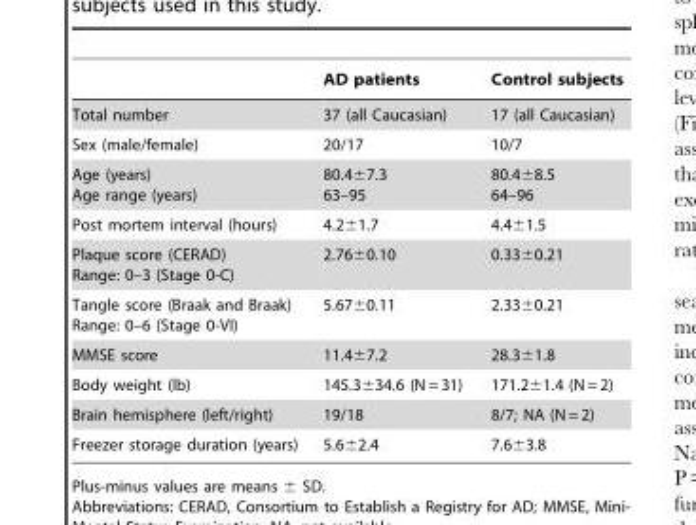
<table><thead><tr><td></td><td>AD patients</td><td>Control subjects</td></tr></thead><tbody><tr><td>Total number</td><td>37 (all Caucasian)</td><td>17 (all Caucasian)</td></tr><tr><td>Sex (male/female)</td><td>20/17</td><td>10/7</td></tr><tr><td>Age (years) Age range (years)</td><td>80.4±7.3 63–95</td><td>80.4±8.5 64–96</td></tr><tr><td>Post mortem interval (hours)</td><td>4.2±1.7</td><td>4.4±1.5</td></tr><tr><td>Plaque score (CERAD) Range: 0–3 (Stage 0-C)</td><td>2.76±0.10</td><td>0.33±0.21</td></tr><tr><td>Tangle score (Braak and Braak) Range: 0–6 (Stage 0-VI)</td><td>5.67±0.11</td><td>2.33±0.21</td></tr><tr><td>MMSE score</td><td>11.4±7.2</td><td>28.3±1.8</td></tr><tr><td>Body weight (lb)</td><td>145.3±34.6 (N = 31)</td><td>171.2±1.4 (N = 2)</td></tr><tr><td>Brain hemisphere (left/right)</td><td>19/18</td><td>8/7; NA (N = 2)</td></tr><tr><td>Freezer storage duration (years)</td><td>5.6±2.4</td><td>7.6±3.8</td></tr></tbody></table>